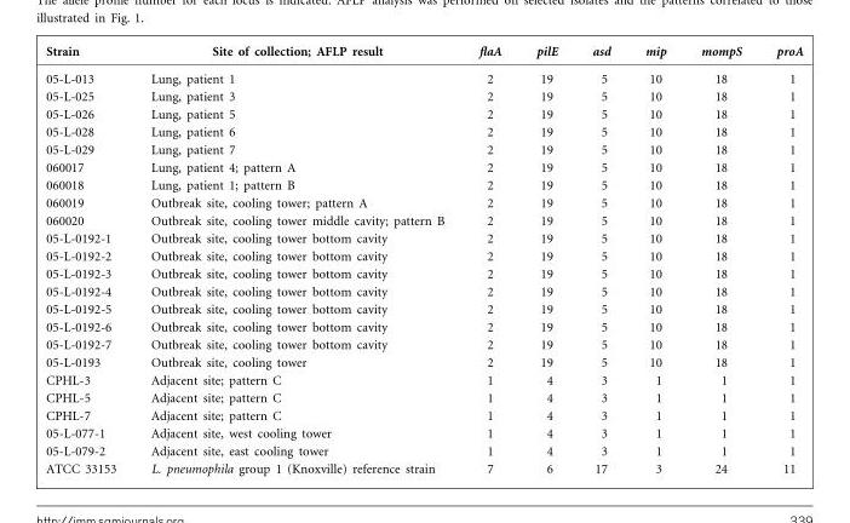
<table><thead><tr><td>Strain</td><td>Site of collection; AFLP result</td><td>flaA</td><td>pilE</td><td>asd</td><td>mip</td><td>mompS</td><td>proA</td></tr></thead><tbody><tr><td>05-L-013</td><td>Lung, patient 1</td><td>2</td><td>19</td><td>5</td><td>10</td><td>18</td><td>1</td></tr><tr><td>05-L-025</td><td>Lung, patient 3</td><td>2</td><td>19</td><td>5</td><td>10</td><td>18</td><td>1</td></tr><tr><td>05-L-026</td><td>Lung, patient 5</td><td>2</td><td>19</td><td>5</td><td>10</td><td>18</td><td>1</td></tr><tr><td>05-L-028</td><td>Lung, patient 6</td><td>2</td><td>19</td><td>5</td><td>10</td><td>18</td><td>1</td></tr><tr><td>05-L-029</td><td>Lung, patient 7</td><td>2</td><td>19</td><td>5</td><td>10</td><td>18</td><td>1</td></tr><tr><td>060017</td><td>Lung, patient 4; pattern A</td><td>2</td><td>19</td><td>5</td><td>10</td><td>18</td><td>1</td></tr><tr><td>060018</td><td>Lung, patient 1; pattern B</td><td>2</td><td>19</td><td>5</td><td>10</td><td>18</td><td>1</td></tr><tr><td>060019</td><td>Outbreak site, cooling tower; pattern A</td><td>2</td><td>19</td><td>5</td><td>10</td><td>18</td><td>1</td></tr><tr><td>060020</td><td>Outbreak site, cooling tower middle cavity; pattern B</td><td>2</td><td>19</td><td>5</td><td>10</td><td>18</td><td>1</td></tr><tr><td>05-L-0192-1</td><td>Outbreak site, cooling tower bottom cavity</td><td>2</td><td>19</td><td>5</td><td>10</td><td>18</td><td>1</td></tr><tr><td>05-L-0192-2</td><td>Outbreak site, cooling tower bottom cavity</td><td>2</td><td>19</td><td>5</td><td>10</td><td>18</td><td>1</td></tr><tr><td>05-L-0192-3</td><td>Outbreak site, cooling tower bottom cavity</td><td>2</td><td>19</td><td>5</td><td>10</td><td>18</td><td>1</td></tr><tr><td>05-L-0192-4</td><td>Outbreak site, cooling tower bottom cavity</td><td>2</td><td>19</td><td>5</td><td>10</td><td>18</td><td>1</td></tr><tr><td>05-L-0192-5</td><td>Outbreak site, cooling tower bottom cavity</td><td>2</td><td>19</td><td>5</td><td>10</td><td>18</td><td>1</td></tr><tr><td>05-L-0192-6</td><td>Outbreak site, cooling tower bottom cavity</td><td>2</td><td>19</td><td>5</td><td>10</td><td>18</td><td>1</td></tr><tr><td>05-L-0192-7</td><td>Outbreak site, cooling tower bottom cavity</td><td>2</td><td>19</td><td>5</td><td>10</td><td>18</td><td>1</td></tr><tr><td>05-L-0193</td><td>Outbreak site, cooling tower</td><td>2</td><td>19</td><td>5</td><td>10</td><td>18</td><td>1</td></tr><tr><td>CPHL-3</td><td>Adjacent site; pattern C</td><td>1</td><td>4</td><td>3</td><td>1</td><td>1</td><td>1</td></tr><tr><td>CPHL-5</td><td>Adjacent site; pattern C</td><td>1</td><td>4</td><td>3</td><td>1</td><td>1</td><td>1</td></tr><tr><td>CPHL-7</td><td>Adjacent site; pattern C</td><td>1</td><td>4</td><td>3</td><td>1</td><td>1</td><td>1</td></tr><tr><td>05-L-077-1</td><td>Adjacent site, west cooling tower</td><td>1</td><td>4</td><td>3</td><td>1</td><td>1</td><td>1</td></tr><tr><td>05-L-079-2</td><td>Adjacent site, east cooling tower</td><td>1</td><td>4</td><td>3</td><td>1</td><td>1</td><td>1</td></tr><tr><td>ATCC 33153</td><td>L. pneumophila group 1 (Knoxville) reference strain</td><td>7</td><td>6</td><td>17</td><td>3</td><td>24</td><td>11</td></tr></tbody></table>